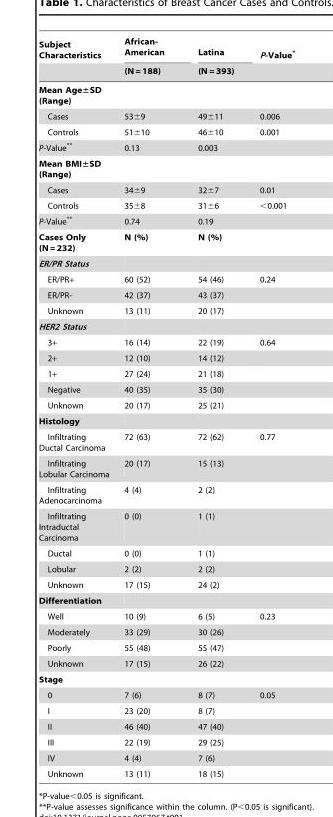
<table><thead><tr><td rowspan="2">Subject Characteristics</td><td rowspan="2">African- American (N = 188)</td><td rowspan="2">Latina (N = 393)</td><td rowspan="2">P-Value*</td></tr><tr></tr></thead><tbody><tr><td colspan="4">Mean Age±SD (Range)</td></tr><tr><td>Cases</td><td>53±9</td><td>49±11</td><td>0.006</td></tr><tr><td>Controls</td><td>51±10</td><td>46±10</td><td>0.001</td></tr><tr><td>P-Value**</td><td>0.13</td><td>0.003</td><td></td></tr><tr><td colspan="4">Mean BMI±SD (Range)</td></tr><tr><td>Cases</td><td>34±9</td><td>32±7</td><td>0.01</td></tr><tr><td>Controls</td><td>35±8</td><td>31±6</td><td>&lt;0.001</td></tr><tr><td>P-Value**</td><td>0.74</td><td>0.19</td><td></td></tr><tr><td>Cases Only (N = 232)</td><td>N (%)</td><td>N (%)</td><td></td></tr><tr><td colspan="4">ER/PR Status</td></tr><tr><td>ER/PR+</td><td>60 (52)</td><td>54 (46)</td><td>0.24</td></tr><tr><td>ER/PR-</td><td>42 (37)</td><td>43 (37)</td><td></td></tr><tr><td>Unknown</td><td>13 (11)</td><td>20 (17)</td><td></td></tr><tr><td colspan="4">HER2 Status</td></tr><tr><td>3+</td><td>16 (14)</td><td>22 (19)</td><td>0.64</td></tr><tr><td>2+</td><td>12 (10)</td><td>14 (12)</td><td></td></tr><tr><td>1+</td><td>27 (24)</td><td>21 (18)</td><td></td></tr><tr><td>Negative</td><td>40 (35)</td><td>35 (30)</td><td></td></tr><tr><td>Unknown</td><td>20 (17)</td><td>25 (21)</td><td></td></tr><tr><td colspan="4">Histology</td></tr><tr><td>Infiltrating Ductal Carcinoma</td><td>72 (63)</td><td>72 (62)</td><td>0.77</td></tr><tr><td>Infiltrating Lobular Carcinoma</td><td>20 (17)</td><td>15 (13)</td><td></td></tr><tr><td>Infiltrating Adenocarcinoma</td><td>4 (4)</td><td>2 (2)</td><td></td></tr><tr><td>Infiltrating Intraductal Carcinoma</td><td>0 (0)</td><td>1 (1)</td><td></td></tr><tr><td>Ductal</td><td>0 (0)</td><td>1 (1)</td><td></td></tr><tr><td>Lobular</td><td>2 (2)</td><td>2 (2)</td><td></td></tr><tr><td>Unknown</td><td>17 (15)</td><td>24 (2)</td><td></td></tr><tr><td colspan="4">Differentiation</td></tr><tr><td>Well</td><td>10 (9)</td><td>6 (5)</td><td>0.23</td></tr><tr><td>Moderately</td><td>33 (29)</td><td>30 (26)</td><td></td></tr><tr><td>Poorly</td><td>55 (48)</td><td>55 (47)</td><td></td></tr><tr><td>Unknown</td><td>17 (15)</td><td>26 (22)</td><td></td></tr><tr><td colspan="4">Stage</td></tr><tr><td>0</td><td>7 (6)</td><td>8 (7)</td><td>0.05</td></tr><tr><td>I</td><td>23 (20)</td><td>8 (7)</td><td></td></tr><tr><td>II</td><td>46 (40)</td><td>47 (40)</td><td></td></tr><tr><td>III</td><td>22 (19)</td><td>29 (25)</td><td></td></tr><tr><td>IV</td><td>4 (4)</td><td>7 (6)</td><td></td></tr><tr><td>Unknown</td><td>13 (11)</td><td>18 (15)</td><td></td></tr></tbody></table>